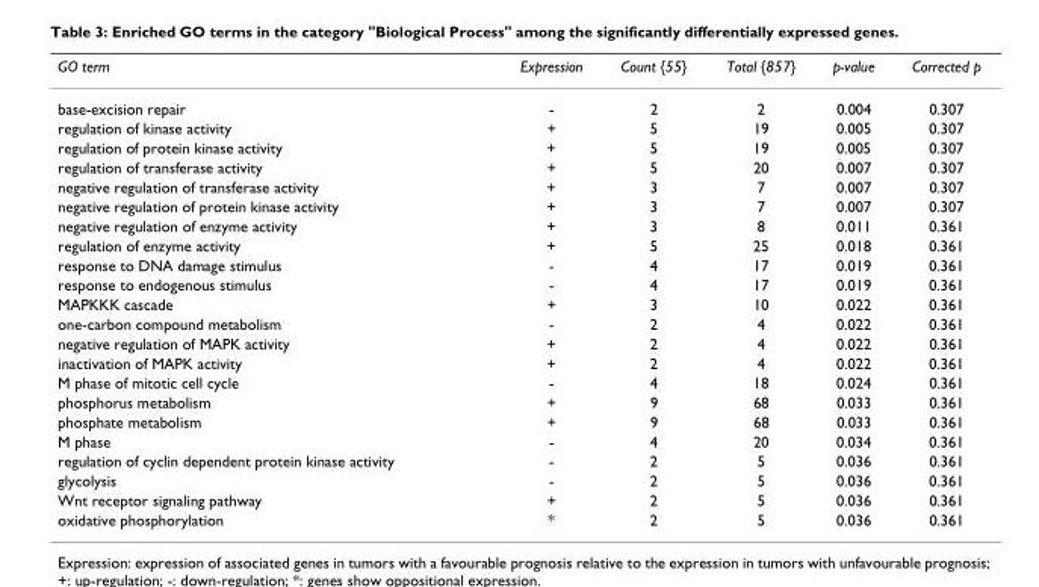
<table><thead><tr><td>GO term</td><td>Expression</td><td>Count {55}</td><td>Total {857}</td><td>p-value</td><td>Corrected p</td></tr></thead><tbody><tr><td>base-excision repair</td><td>-</td><td>2</td><td>2</td><td>0.004</td><td>0.307</td></tr><tr><td>regulation of kinase activity</td><td>+</td><td>5</td><td>19</td><td>0.005</td><td>0.307</td></tr><tr><td>regulation of protein kinase activity</td><td>+</td><td>5</td><td>19</td><td>0.005</td><td>0.307</td></tr><tr><td>regulation of transferase activity</td><td>+</td><td>5</td><td>20</td><td>0.007</td><td>0.307</td></tr><tr><td>negative regulation of transferase activity</td><td>+</td><td>3</td><td>7</td><td>0.007</td><td>0.307</td></tr><tr><td>negative regulation of protein kinase activity</td><td>+</td><td>3</td><td>7</td><td>0.007</td><td>0.307</td></tr><tr><td>negative regulation of enzyme activity</td><td>+</td><td>3</td><td>8</td><td>0.011</td><td>0.361</td></tr><tr><td>regulation of enzyme activity</td><td>+</td><td>5</td><td>25</td><td>0.018</td><td>0.361</td></tr><tr><td>response to DNA damage stimulus</td><td>-</td><td>4</td><td>17</td><td>0.019</td><td>0.361</td></tr><tr><td>response to endogenous stimulus</td><td>-</td><td>4</td><td>17</td><td>0.019</td><td>0.361</td></tr><tr><td>MAPKKK cascade</td><td>+</td><td>3</td><td>10</td><td>0.022</td><td>0.361</td></tr><tr><td>one-carbon compound metabolism</td><td>-</td><td>2</td><td>4</td><td>0.022</td><td>0.361</td></tr><tr><td>negative regulation of MAPK activity</td><td>+</td><td>2</td><td>4</td><td>0.022</td><td>0.361</td></tr><tr><td>inactivation of MAPK activity</td><td>+</td><td>2</td><td>4</td><td>0.022</td><td>0.361</td></tr><tr><td>M phase of mitotic cell cycle</td><td>-</td><td>4</td><td>18</td><td>0.024</td><td>0.361</td></tr><tr><td>phosphorus metabolism</td><td>+</td><td>9</td><td>68</td><td>0.033</td><td>0.361</td></tr><tr><td>phosphate metabolism</td><td>+</td><td>9</td><td>68</td><td>0.033</td><td>0.361</td></tr><tr><td>M phase</td><td>-</td><td>4</td><td>20</td><td>0.034</td><td>0.361</td></tr><tr><td>regulation of cyclin dependent protein kinase activity</td><td>-</td><td>2</td><td>5</td><td>0.036</td><td>0.361</td></tr><tr><td>glycolysis</td><td>-</td><td>2</td><td>5</td><td>0.036</td><td>0.361</td></tr><tr><td>Wnt receptor signaling pathway</td><td>+</td><td>2</td><td>5</td><td>0.036</td><td>0.361</td></tr><tr><td>oxidative phosphorylation</td><td>*</td><td>2</td><td>5</td><td>0.036</td><td>0.361</td></tr></tbody></table>